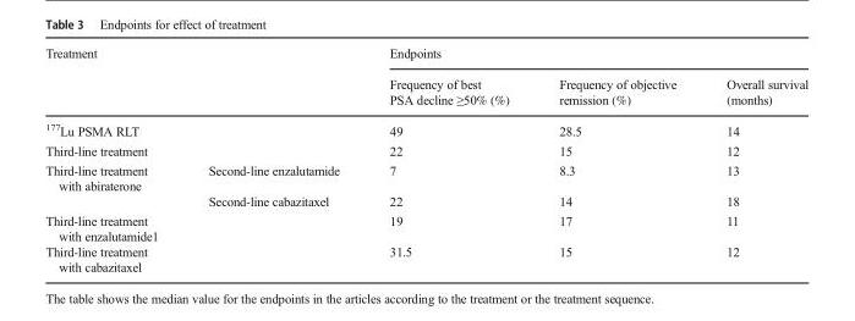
<table><thead><tr><td rowspan="2" colspan="2">Treatment</td><td colspan="3">Endpoints</td></tr><tr><td rowspan="2">Frequency of best PSA decline ≥50% (%) 49</td><td rowspan="2">Frequency of objective remission (%) 28.5</td><td rowspan="2">Overall survival (months) 14</td></tr><tr><td><sup>177</sup>Lu PSMA RLT</td><td></td></tr></thead><tbody><tr><td>Third-line treatment</td><td></td><td>22</td><td>15</td><td>12</td></tr><tr><td rowspan="2">Third-line treatment with abiraterone</td><td>Second-line enzalutamide</td><td>7</td><td>8.3</td><td>13</td></tr><tr><td>Second-line cabazitaxel</td><td>22</td><td>14</td><td>18</td></tr><tr><td>Third-line treatment with enzalutamide1</td><td></td><td>19</td><td>17</td><td>11</td></tr><tr><td>Third-line treatment with cabazitaxel</td><td></td><td>31.5</td><td>15</td><td>12</td></tr></tbody></table>